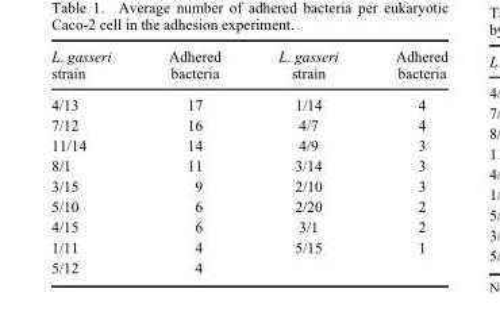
<table><thead><tr><td>L. gasseri strain</td><td>Adhered bacteria</td><td>L. gasseri strain</td><td>Adhered bacteria</td></tr></thead><tbody><tr><td>4/13</td><td>17</td><td>1/14</td><td>4</td></tr><tr><td>7/12</td><td>16</td><td>4/7</td><td>4</td></tr><tr><td>11/14</td><td>14</td><td>4/9</td><td>3</td></tr><tr><td>8/1</td><td>11</td><td>3/14</td><td>3</td></tr><tr><td>3/15</td><td>9</td><td>2/10</td><td>3</td></tr><tr><td>5/10</td><td>6</td><td>2/20</td><td>2</td></tr><tr><td>4/15</td><td>6</td><td>3/1</td><td>2</td></tr><tr><td>1/11</td><td>4</td><td>5/15</td><td>1</td></tr><tr><td>5/12</td><td>4</td><td></td><td></td></tr></tbody></table>